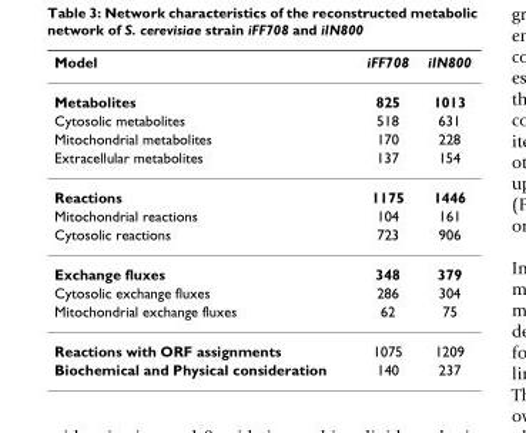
<table><thead><tr><td>Model</td><td>iFF708</td><td>iIN800</td></tr></thead><tbody><tr><td>Metabolites</td><td>825</td><td>1013</td></tr><tr><td>Cytosolic metabolites</td><td>518</td><td>631</td></tr><tr><td>Mitochondrial metabolites</td><td>170</td><td>228</td></tr><tr><td>Extracellular metabolites</td><td>137</td><td>154</td></tr><tr><td>Reactions</td><td>1175</td><td>1446</td></tr><tr><td>Mitochondrial reactions</td><td>104</td><td>161</td></tr><tr><td>Cytosolic reactions</td><td>723</td><td>906</td></tr><tr><td>Exchange fluxes</td><td>348</td><td>379</td></tr><tr><td>Cytosolic exchange fluxes</td><td>286</td><td>304</td></tr><tr><td>Mitochondrial exchange fluxes</td><td>62</td><td>75</td></tr><tr><td>Reactions with ORF assignments</td><td>1075</td><td>1209</td></tr><tr><td>Biochemical and Physical consideration</td><td>140</td><td>237</td></tr></tbody></table>